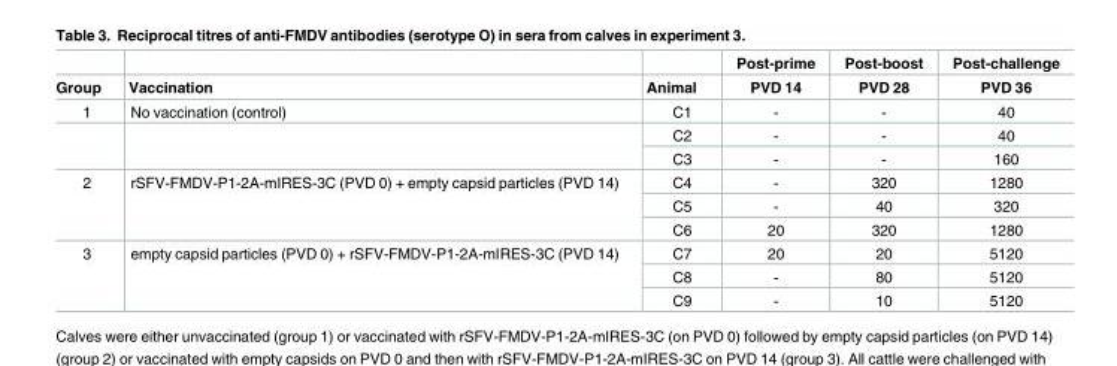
<table><thead><tr><td rowspan="2">Group</td><td rowspan="2">Vaccination</td><td rowspan="2">Animal</td><td rowspan="2">Post-prime PVD 14</td><td rowspan="2">Post-boost PVD 28</td><td rowspan="2">Post-challenge PVD 36</td></tr><tr></tr></thead><tbody><tr><td rowspan="3">1</td><td>No vaccination (control)</td><td>C1</td><td>-</td><td>-</td><td>40</td></tr><tr><td rowspan="2"></td><td>C2</td><td>-</td><td>-</td><td>40</td></tr><tr><td>C3</td><td>-</td><td>-</td><td>160</td></tr><tr><td rowspan="3">2</td><td rowspan="3">rSFV-FMDV-P1-2A-mIRES-3C (PVD 0) + empty capsid particles (PVD 14)</td><td>C4</td><td>-</td><td>320</td><td>1280</td></tr><tr><td>C5</td><td>-</td><td>40</td><td>320</td></tr><tr><td>C6</td><td>20</td><td>320</td><td>1280</td></tr><tr><td rowspan="3">3</td><td rowspan="3">empty capsid particles (PVD 0) + rSFV-FMDV-P1-2A-mIRES-3C (PVD 14)</td><td>C7</td><td>20</td><td>20</td><td>5120</td></tr><tr><td>C8</td><td>-</td><td>80</td><td>5120</td></tr><tr><td>C9</td><td>-</td><td>10</td><td>5120</td></tr></tbody></table>